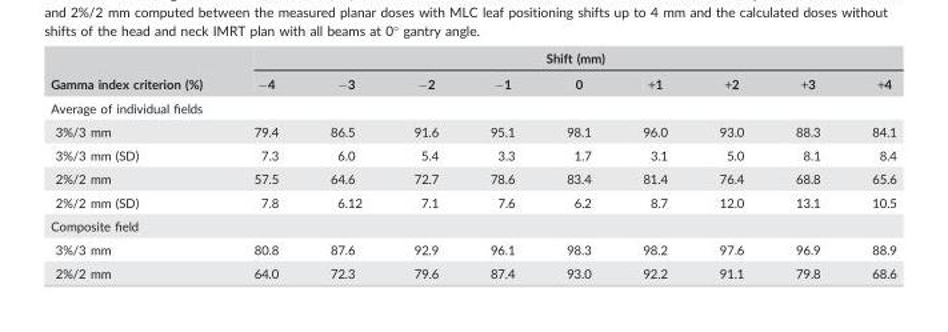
<table><thead><tr><td rowspan="2">Gamma index criterion (%)</td><td colspan="9">Shift (mm)</td></tr><tr><td>−4</td><td>−3</td><td>−2</td><td>−1</td><td>0</td><td>+1</td><td>+2</td><td>+3</td><td>+4</td></tr></thead><tbody><tr><td colspan="10">Average of individual fields</td></tr><tr><td>3%/3 mm</td><td>79.4</td><td>86.5</td><td>91.6</td><td>95.1</td><td>98.1</td><td>96.0</td><td>93.0</td><td>88.3</td><td>84.1</td></tr><tr><td>3%/3 mm (SD)</td><td>7.3</td><td>6.0</td><td>5.4</td><td>3.3</td><td>1.7</td><td>3.1</td><td>5.0</td><td>8.1</td><td>8.4</td></tr><tr><td>2%/2 mm</td><td>57.5</td><td>64.6</td><td>72.7</td><td>78.6</td><td>83.4</td><td>81.4</td><td>76.4</td><td>68.8</td><td>65.6</td></tr><tr><td>2%/2 mm (SD)</td><td>7.8</td><td>6.12</td><td>7.1</td><td>7.6</td><td>6.2</td><td>8.7</td><td>12.0</td><td>13.1</td><td>10.5</td></tr><tr><td colspan="10">Composite field</td></tr><tr><td>3%/3 mm</td><td>80.8</td><td>87.6</td><td>92.9</td><td>96.1</td><td>98.3</td><td>98.2</td><td>97.6</td><td>96.9</td><td>88.9</td></tr><tr><td>2%/2 mm</td><td>64.0</td><td>72.3</td><td>79.6</td><td>87.4</td><td>93.0</td><td>92.2</td><td>91.1</td><td>79.8</td><td>68.6</td></tr></tbody></table>